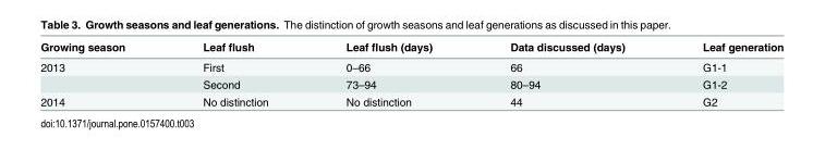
<table><thead><tr><td>Growing season</td><td>Leaf flush</td><td>Leaf flush (days)</td><td>Data discussed (days)</td><td>Leaf generation</td></tr></thead><tbody><tr><td rowspan="2">2013</td><td>First</td><td>0–66</td><td>66</td><td>G1-1</td></tr><tr><td>Second</td><td>73–94</td><td>80–94</td><td>G1-2</td></tr><tr><td>2014</td><td>No distinction</td><td>No distinction</td><td>44</td><td>G2</td></tr></tbody></table>